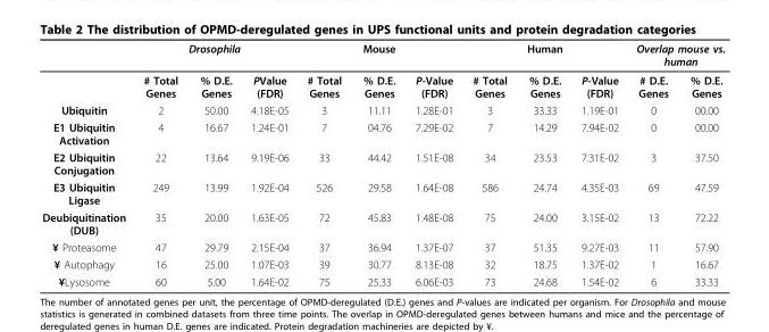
<table><thead><tr><td rowspan="2"></td><td colspan="3">Drosophila</td><td colspan="3">Mouse</td><td colspan="3">Human</td><td colspan="2">Overlap mouse vs. human</td></tr><tr><td># Total Genes</td><td>% D.E. Genes</td><td>PValue (FDR)</td><td># Total Genes</td><td>% D.E. Genes</td><td>P-Value (FDR)</td><td># Total Genes</td><td>% D.E. Genes</td><td>P-Value (FDR)</td><td># D.E. Genes</td><td>% D.E. Genes</td></tr></thead><tbody><tr><td>Ubiquitin</td><td>2</td><td>50.00</td><td>4.18E-05</td><td>3</td><td>11.11</td><td>1.28E-01</td><td>3</td><td>33.33</td><td>1.19E-01</td><td>0</td><td>00.00</td></tr><tr><td>E1 Ubiquitin Activation</td><td>4</td><td>16.67</td><td>1.24E-01</td><td>7</td><td>04.76</td><td>7.29E-02</td><td>7</td><td>14.29</td><td>7.94E-02</td><td>0</td><td>00.00</td></tr><tr><td>E2 Ubiquitin Conjugation</td><td>22</td><td>13.64</td><td>9.19E-06</td><td>33</td><td>44.42</td><td>1.51E-08</td><td>34</td><td>23.53</td><td>7.31E-02</td><td>3</td><td>37.50</td></tr><tr><td>E3 Ubiquitin Ligase</td><td>249</td><td>13.99</td><td>1.92E-04</td><td>526</td><td>29.58</td><td>1.64E-08</td><td>586</td><td>24.74</td><td>4.35E-03</td><td>69</td><td>47.59</td></tr><tr><td>Deubiquitination (DUB)</td><td>35</td><td>20.00</td><td>1.63E-05</td><td>72</td><td>45.83</td><td>1.48E-08</td><td>75</td><td>24.00</td><td>3.15E-02</td><td>13</td><td>72.22</td></tr><tr><td>¥ Proteasome</td><td>47</td><td>29.79</td><td>2.15E-04</td><td>37</td><td>36.94</td><td>1.37E-07</td><td>37</td><td>51.35</td><td>9.27E-03</td><td>11</td><td>57.90</td></tr><tr><td>¥ Autophagy</td><td>16</td><td>25.00</td><td>1.07E-03</td><td>39</td><td>30.77</td><td>8.13E-08</td><td>32</td><td>18.75</td><td>1.37E-02</td><td>1</td><td>16.67</td></tr><tr><td>¥Lysosome</td><td>60</td><td>5.00</td><td>1.64E-02</td><td>75</td><td>25.33</td><td>6.06E-03</td><td>73</td><td>24.68</td><td>1.54E-02</td><td>6</td><td>33.33</td></tr></tbody></table>